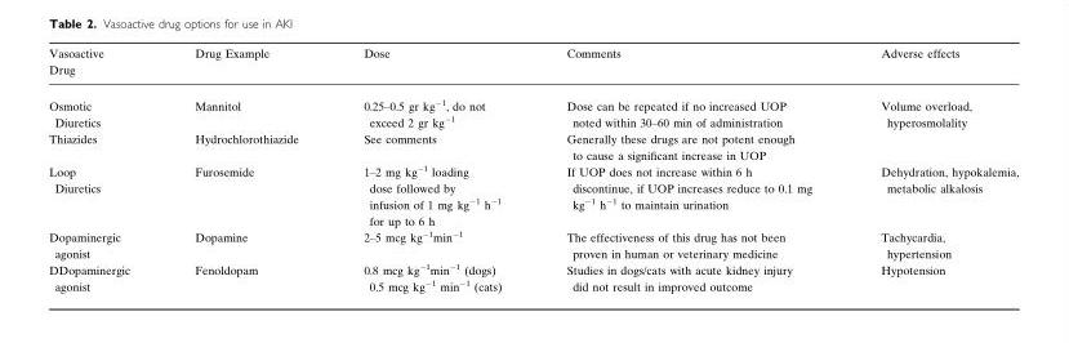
<table><thead><tr><td>Vasoactive Drug</td><td>Drug Example</td><td>Dose</td><td>Comments</td><td>Adverse effects</td></tr></thead><tbody><tr><td>Osmotic Diuretics</td><td>Mannitol</td><td>0.25–0.5 gr kg<sup>−1</sup>, do not exceed 2 gr kg<sup>−1</sup></td><td>Dose can be repeated if no increased UOP noted within 30–60 min of administration</td><td>Volume overload, hyperosmolality</td></tr><tr><td>Thiazides</td><td>Hydrochlorothiazide</td><td>See comments</td><td>Generally these drugs are not potent enough to cause a significant increase in UOP</td><td></td></tr><tr><td>Loop Diuretics</td><td>Furosemide</td><td>1–2 mg kg<sup>−1</sup> loading dose followed by infusion of 1 mg kg<sup>−1</sup> h<sup>−1</sup> for up to 6 h</td><td>If UOP does not increase within 6 h discontinue, if UOP increases reduce to 0.1 mg kg<sup>−1</sup> h<sup>−1</sup> to maintain urination</td><td>Dehydration, hypokalemia, metabolic alkalosis</td></tr><tr><td>Dopaminergic agonist</td><td>Dopamine</td><td>2–5 mcg kg<sup>−1</sup>min<sup>−1</sup></td><td>The effectiveness of this drug has not been proven in human or veterinary medicine</td><td>Tachycardia, hypertension</td></tr><tr><td>DDopaminergic agonist</td><td>Fenoldopam</td><td>0.8 mcg kg<sup>−1</sup>min<sup>−1</sup> (dogs) 0.5 mcg kg<sup>−1</sup> min<sup>−1</sup> (cats)</td><td>Studies in dogs/cats with acute kidney injury did not result in improved outcome</td><td>Hypotension</td></tr></tbody></table>